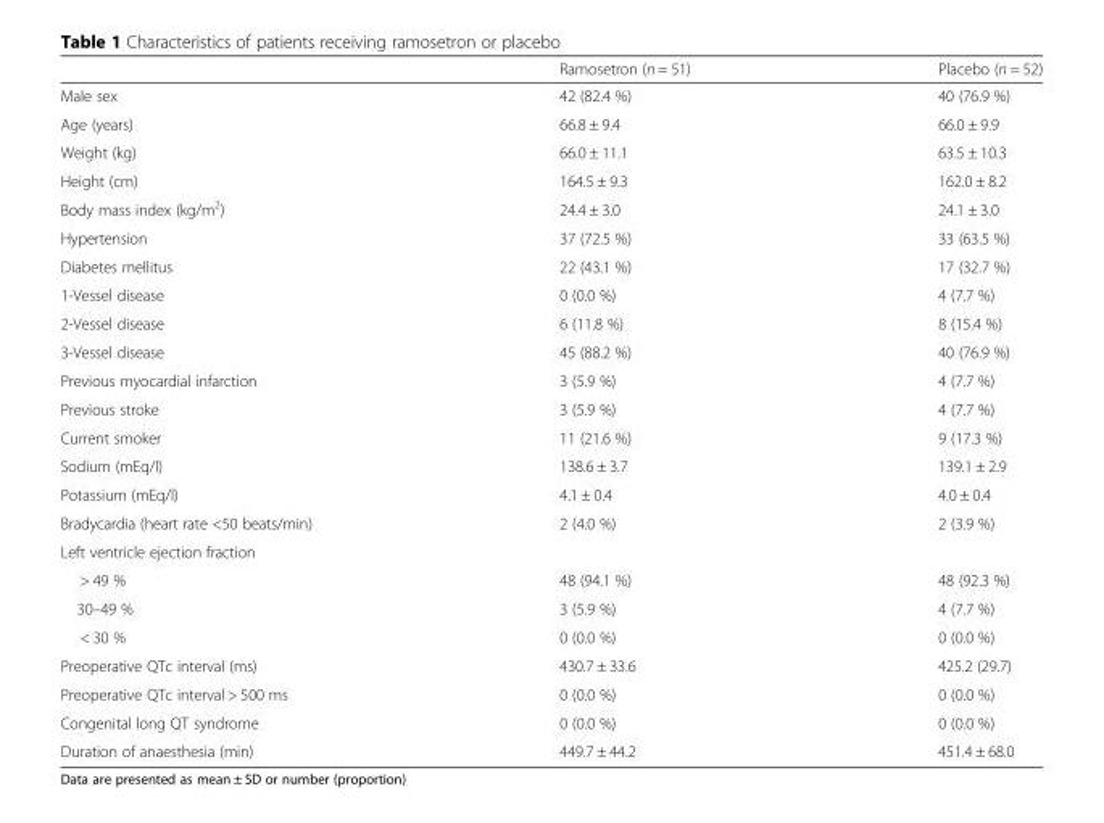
<table><thead><tr><td></td><td>Ramosetron (n = 51)</td><td>Placebo (n = 52)</td></tr></thead><tbody><tr><td>Male sex</td><td>42 (82.4 %)</td><td>40 (76.9 %)</td></tr><tr><td>Age (years)</td><td>66.8 ± 9.4</td><td>66.0 ± 9.9</td></tr><tr><td>Weight (kg)</td><td>66.0 ± 11.1</td><td>63.5 ± 10.3</td></tr><tr><td>Height (cm)</td><td>164.5 ± 9.3</td><td>162.0 ± 8.2</td></tr><tr><td>Body mass index (kg/m<sup>2</sup>)</td><td>24.4 ± 3.0</td><td>24.1 ± 3.0</td></tr><tr><td>Hypertension</td><td>37 (72.5 %)</td><td>33 (63.5 %)</td></tr><tr><td>Diabetes mellitus</td><td>22 (43.1 %)</td><td>17 (32.7 %)</td></tr><tr><td>1-Vessel disease</td><td>0 (0.0 %)</td><td>4 (7.7 %)</td></tr><tr><td>2-Vessel disease</td><td>6 (11.8 %)</td><td>8 (15.4 %)</td></tr><tr><td>3-Vessel disease</td><td>45 (88.2 %)</td><td>40 (76.9 %)</td></tr><tr><td>Previous myocardial infarction</td><td>3 (5.9 %)</td><td>4 (7.7 %)</td></tr><tr><td>Previous stroke</td><td>3 (5.9 %)</td><td>4 (7.7 %)</td></tr><tr><td>Current smoker</td><td>11 (21.6 %)</td><td>9 (17.3 %)</td></tr><tr><td>Sodium (mEq/l)</td><td>138.6 ± 3.7</td><td>139.1 ± 2.9</td></tr><tr><td>Potassium (mEq/l)</td><td>4.1 ± 0.4</td><td>4.0 ± 0.4</td></tr><tr><td>Bradycardia (heart rate &lt;50 beats/min)</td><td>2 (4.0 %)</td><td>2 (3.9 %)</td></tr><tr><td colspan="3">Left ventricle ejection fraction</td></tr><tr><td>&gt; 49 %</td><td>48 (94.1 %)</td><td>48 (92.3 %)</td></tr><tr><td>30–49 %</td><td>3 (5.9 %)</td><td>4 (7.7 %)</td></tr><tr><td>&lt; 30 %</td><td>0 (0.0 %)</td><td>0 (0.0 %)</td></tr><tr><td>Preoperative QTc interval (ms)</td><td>430.7 ± 33.6</td><td>425.2 (29.7)</td></tr><tr><td>Preoperative QTc interval &gt; 500 ms</td><td>0 (0.0 %)</td><td>0 (0.0 %)</td></tr><tr><td>Congenital long QT syndrome</td><td>0 (0.0 %)</td><td>0 (0.0 %)</td></tr><tr><td>Duration of anaesthesia (min)</td><td>449.7 ± 44.2</td><td>451.4 ± 68.0</td></tr></tbody></table>